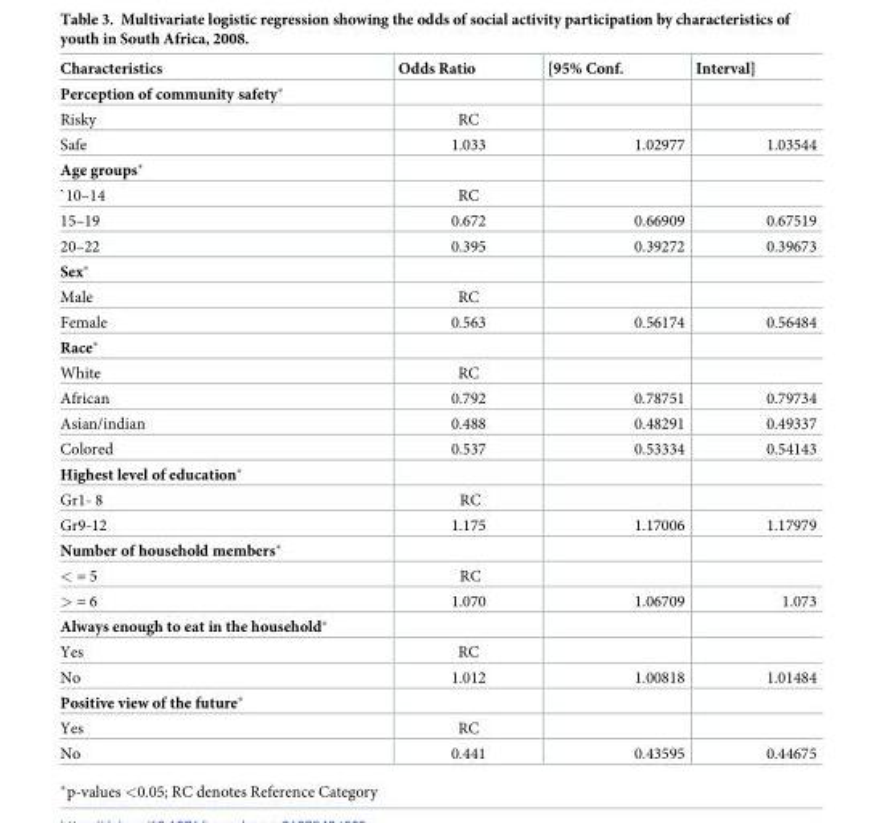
<table><thead><tr><td>Characteristics</td><td>Odds Ratio</td><td>[95% Conf.</td><td>Interval]</td></tr></thead><tbody><tr><td colspan="4">Perception of community safety*</td></tr><tr><td>Risky</td><td>RC</td><td></td><td></td></tr><tr><td>Safe</td><td>1.033</td><td>1.02977</td><td>1.03544</td></tr><tr><td colspan="4">Age groups*</td></tr><tr><td>`10–14</td><td>RC</td><td></td><td></td></tr><tr><td>15–19</td><td>0.672</td><td>0.66909</td><td>0.67519</td></tr><tr><td>20–22</td><td>0.395</td><td>0.39272</td><td>0.39673</td></tr><tr><td colspan="4">Sex*</td></tr><tr><td>Male</td><td>RC</td><td></td><td></td></tr><tr><td>Female</td><td>0.563</td><td>0.56174</td><td>0.56484</td></tr><tr><td colspan="4">Race*</td></tr><tr><td>White</td><td>RC</td><td></td><td></td></tr><tr><td>African</td><td>0.792</td><td>0.78751</td><td>0.79734</td></tr><tr><td>Asian/indian</td><td>0.488</td><td>0.48291</td><td>0.49337</td></tr><tr><td>Colored</td><td>0.537</td><td>0.53334</td><td>0.54143</td></tr><tr><td colspan="4">Highest level of education*</td></tr><tr><td>Gr1- 8</td><td>RC</td><td></td><td></td></tr><tr><td>Gr9-12</td><td>1.175</td><td>1.17006</td><td>1.17979</td></tr><tr><td colspan="4">Number of household members*</td></tr><tr><td>&lt; = 5</td><td>RC</td><td></td><td></td></tr><tr><td>&gt; = 6</td><td>1.070</td><td>1.06709</td><td>1.073</td></tr><tr><td colspan="4">Always enough to eat in the household*</td></tr><tr><td>Yes</td><td>RC</td><td></td><td></td></tr><tr><td>No</td><td>1.012</td><td>1.00818</td><td>1.01484</td></tr><tr><td colspan="4">Positive view of the future*</td></tr><tr><td>Yes</td><td>RC</td><td></td><td></td></tr><tr><td>No</td><td>0.441</td><td>0.43595</td><td>0.44675</td></tr></tbody></table>